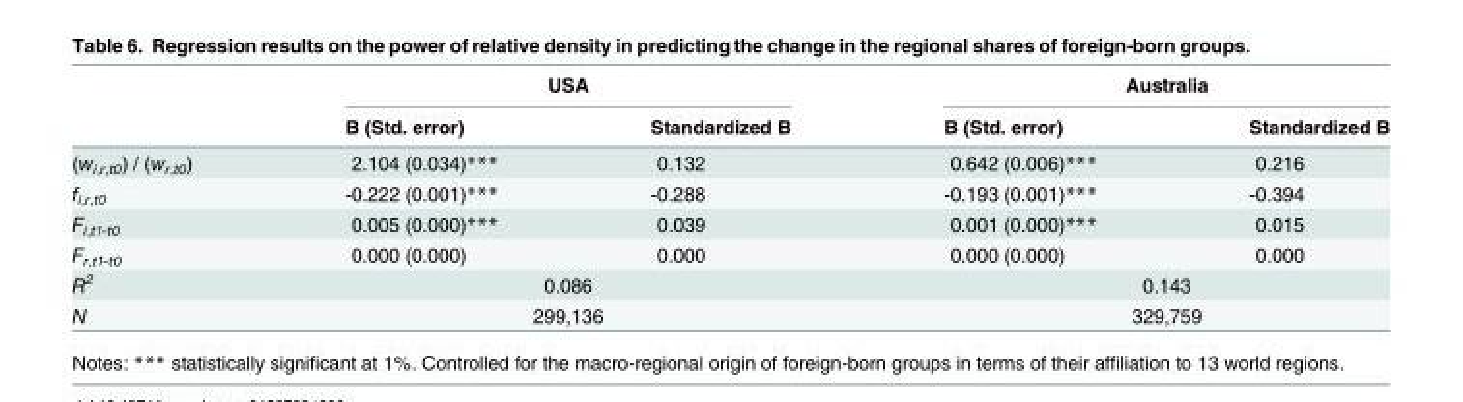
<table><thead><tr><td rowspan="2"></td><td colspan="2">USA</td><td colspan="2">Australia</td></tr><tr><td>B (Std. error)</td><td>Standardized B</td><td>B (Std. error)</td><td>Standardized B</td></tr></thead><tbody><tr><td>(w<sub>i,r,t0</sub>) / (w<sub>r,t0</sub>)</td><td>2.104 (0.034)***</td><td>0.132</td><td>0.642 (0.006)***</td><td>0.216</td></tr><tr><td>f<sub>i,r,t0</sub></td><td>-0.222 (0.001)***</td><td>-0.288</td><td>-0.193 (0.001)***</td><td>-0.394</td></tr><tr><td>F<sub>i,t1-t0</sub></td><td>0.005 (0.000)***</td><td>0.039</td><td>0.001 (0.000)***</td><td>0.015</td></tr><tr><td>F<sub>r,t1-t0</sub></td><td>0.000 (0.000)</td><td>0.000</td><td>0.000 (0.000)</td><td>0.000</td></tr><tr><td>R<sup>2</sup></td><td colspan="2">0.086</td><td colspan="2">0.143</td></tr><tr><td>N</td><td colspan="2">299,136</td><td colspan="2">329,759</td></tr></tbody></table>